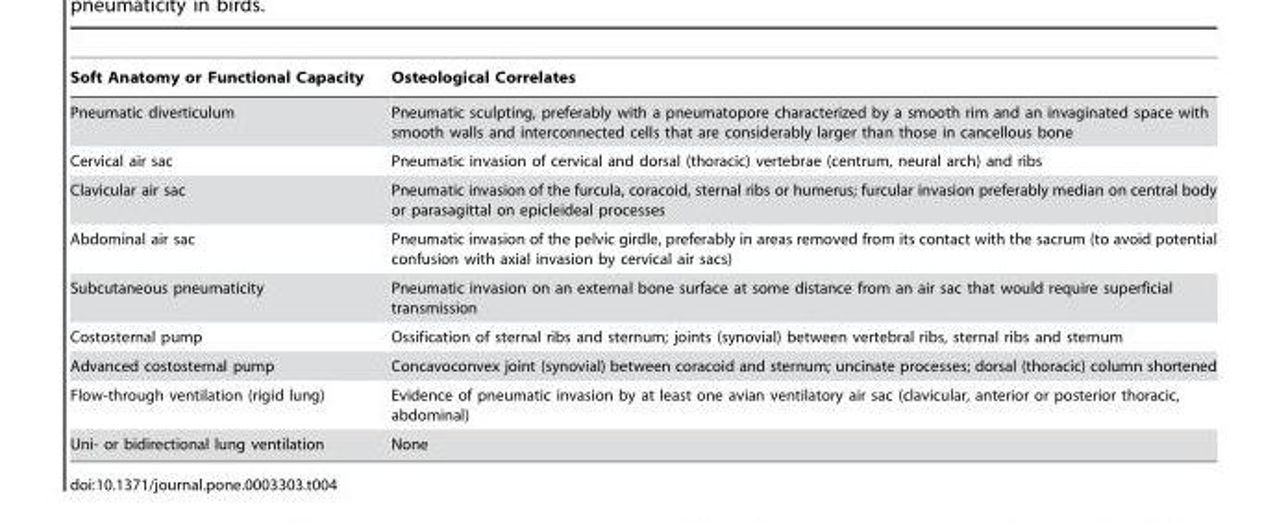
<table><thead><tr><td>Soft Anatomy or Functional Capacity</td><td>Osteological Correlates</td></tr></thead><tbody><tr><td>Pneumatic diverticulum</td><td>Pneumatic sculpting, preferably with a pneumatopore characterized by a smooth rim and an invaginated space with smooth walls and interconnected cells that are considerably larger than those in cancellous bone</td></tr><tr><td>Cervical air sac</td><td>Pneumatic invasion of cervical and dorsal (thoracic) vertebrae (centrum, neural arch) and ribs</td></tr><tr><td>Clavicular air sac</td><td>Pneumatic invasion of the furcula, coracoid, sternal ribs or humerus; furcular invasion preferably median on central body or parasagittal on epicleideal processes</td></tr><tr><td>Abdominal air sac</td><td>Pneumatic invasion of the pelvic girdle, preferably in areas removed from its contact with the sacrum (to avoid potential confusion with axial invasion by cervical air sacs)</td></tr><tr><td>Subcutaneous pneumaticity</td><td>Pneumatic invasion on an external bone surface at some distance from an air sac that would require superficial transmission</td></tr><tr><td>Costosternal pump</td><td>Ossification of sternal ribs and sternum; joints (synovial) between vertebral ribs, sternal ribs and sternum</td></tr><tr><td>Advanced costosternal pump</td><td>Concavoconvex joint (synovial) between coracoid and sternum; uncinate processes; dorsal (thoracic) column shortened</td></tr><tr><td>Flow-through ventilation (rigid lung)</td><td>Evidence of pneumatic invasion by at least one avian ventilatory air sac (clavicular, anterior or posterior thoracic, abdominal)</td></tr><tr><td>Uni- or bidirectional lung ventilation</td><td>None</td></tr></tbody></table>